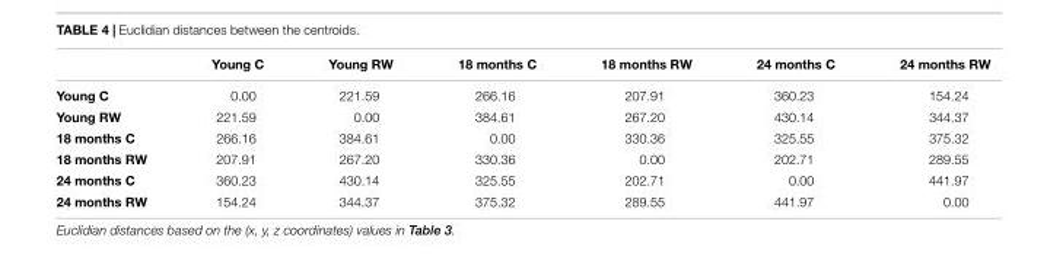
<table><thead><tr><td></td><td>Young C</td><td>Young RW</td><td>18 months C</td><td>18 months RW</td><td>24 months C</td><td>24 months RW</td></tr></thead><tbody><tr><td>Young C</td><td>0.00</td><td>221.59</td><td>266.16</td><td>207.91</td><td>360.23</td><td>154.24</td></tr><tr><td>Young RW</td><td>221.59</td><td>0.00</td><td>384.61</td><td>267.20</td><td>430.14</td><td>344.37</td></tr><tr><td>18 months C</td><td>266.16</td><td>384.61</td><td>0.00</td><td>330.36</td><td>325.55</td><td>375.32</td></tr><tr><td>18 months RW</td><td>207.91</td><td>267.20</td><td>330.36</td><td>0.00</td><td>202.71</td><td>289.55</td></tr><tr><td>24 months C</td><td>360.23</td><td>430.14</td><td>325.55</td><td>202.71</td><td>0.00</td><td>441.97</td></tr><tr><td>24 months RW</td><td>154.24</td><td>344.37</td><td>375.32</td><td>289.55</td><td>441.97</td><td>0.00</td></tr></tbody></table>